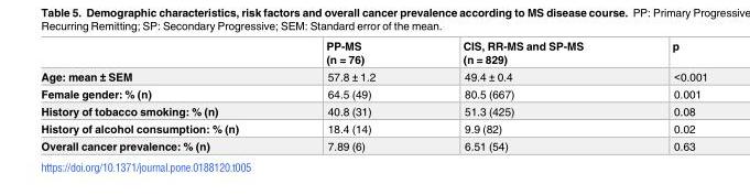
<table><thead><tr><td></td><td>PP-MS (n = 76)</td><td>CIS, RR-MS and SP-MS (n = 829)</td><td>p</td></tr></thead><tbody><tr><td>Age: mean ± SEM</td><td>57.8 ± 1.2</td><td>49.4 ± 0.4</td><td>&lt;0.001</td></tr><tr><td>Female gender: % (n)</td><td>64.5 (49)</td><td>80.5 (667)</td><td>0.001</td></tr><tr><td>History of tobacco smoking: % (n)</td><td>40.8 (31)</td><td>51.3 (425)</td><td>0.08</td></tr><tr><td>History of alcohol consumption: % (n)</td><td>18.4 (14)</td><td>9.9 (82)</td><td>0.02</td></tr><tr><td>Overall cancer prevalence: % (n)</td><td>7.89 (6)</td><td>6.51 (54)</td><td>0.63</td></tr></tbody></table>